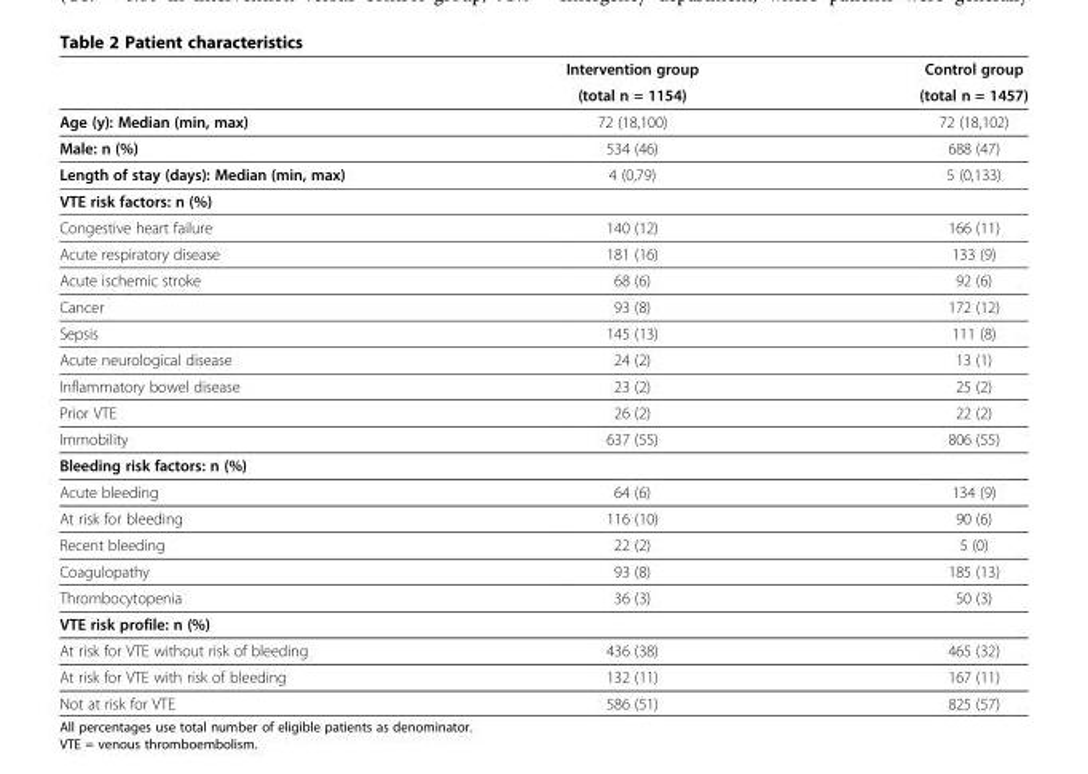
<table><thead><tr><td rowspan="2"></td><td rowspan="2">Intervention group (total n = 1154)</td><td rowspan="2">Control group (total n = 1457)</td></tr><tr></tr></thead><tbody><tr><td>Age (y): Median (min, max)</td><td>72 (18,100)</td><td>72 (18,102)</td></tr><tr><td>Male: n (%)</td><td>534 (46)</td><td>688 (47)</td></tr><tr><td>Length of stay (days): Median (min, max)</td><td>4 (0,79)</td><td>5 (0,133)</td></tr><tr><td colspan="3">VTE risk factors: n (%)</td></tr><tr><td>Congestive heart failure</td><td>140 (12)</td><td>166 (11)</td></tr><tr><td>Acute respiratory disease</td><td>181 (16)</td><td>133 (9)</td></tr><tr><td>Acute ischemic stroke</td><td>68 (6)</td><td>92 (6)</td></tr><tr><td>Cancer</td><td>93 (8)</td><td>172 (12)</td></tr><tr><td>Sepsis</td><td>145 (13)</td><td>111 (8)</td></tr><tr><td>Acute neurological disease</td><td>24 (2)</td><td>13 (1)</td></tr><tr><td>Inflammatory bowel disease</td><td>23 (2)</td><td>25 (2)</td></tr><tr><td>Prior VTE</td><td>26 (2)</td><td>22 (2)</td></tr><tr><td>Immobility</td><td>637 (55)</td><td>806 (55)</td></tr><tr><td colspan="3">Bleeding risk factors: n (%)</td></tr><tr><td>Acute bleeding</td><td>64 (6)</td><td>134 (9)</td></tr><tr><td>At risk for bleeding</td><td>116 (10)</td><td>90 (6)</td></tr><tr><td>Recent bleeding</td><td>22 (2)</td><td>5 (0)</td></tr><tr><td>Coagulopathy</td><td>93 (8)</td><td>185 (13)</td></tr><tr><td>Thrombocytopenia</td><td>36 (3)</td><td>50 (3)</td></tr><tr><td colspan="3">VTE risk profile: n (%)</td></tr><tr><td>At risk for VTE without risk of bleeding</td><td>436 (38)</td><td>465 (32)</td></tr><tr><td>At risk for VTE with risk of bleeding</td><td>132 (11)</td><td>167 (11)</td></tr><tr><td>Not at risk for VTE</td><td>586 (51)</td><td>825 (57)</td></tr></tbody></table>